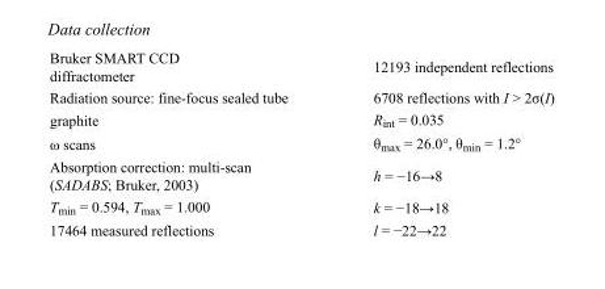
<table><tbody><tr><td>Bruker SMART CCD diffractometer</td><td>12193 independent reflections</td></tr><tr><td>Radiation source: fine-focus sealed tube</td><td>6708 reflections with I &gt; 2σ(I)</td></tr><tr><td>graphite</td><td>R<sub>int</sub> = 0.035</td></tr><tr><td>ω scans</td><td>θ<sub>max</sub> = 26.0°, θ<sub>min</sub> = 1.2°</td></tr><tr><td>Absorption correction: multi-scan (SADABS; Bruker, 2003)</td><td>h = −16→8</td></tr><tr><td>T<sub>min</sub> = 0.594, T<sub>max</sub> = 1.000</td><td>k = −18→18</td></tr><tr><td>17464 measured reflections</td><td>l = −22→22</td></tr></tbody></table>